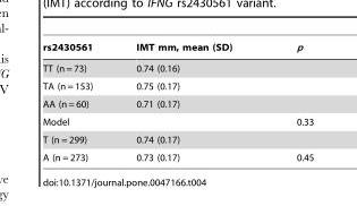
<table><thead><tr><td>rs2430561</td><td>IMT mm, mean (SD)</td><td>p</td></tr></thead><tbody><tr><td>TT (n = 73)</td><td>0.74 (0.16)</td><td></td></tr><tr><td>TA (n = 153)</td><td>0.75 (0.17)</td><td></td></tr><tr><td>AA (n = 60)</td><td>0.71 (0.17)</td><td></td></tr><tr><td>Model</td><td></td><td>0.33</td></tr><tr><td>T (n = 299)</td><td>0.74 (0.17)</td><td></td></tr><tr><td>A (n = 273)</td><td>0.73 (0.17)</td><td>0.45</td></tr></tbody></table>